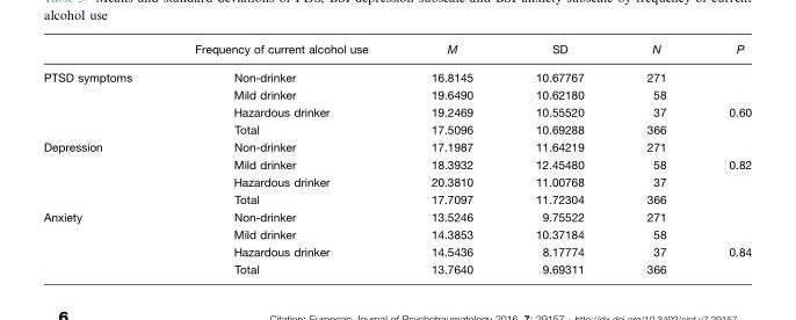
<table><thead><tr><td></td><td>Frequency of current alcohol use</td><td>M</td><td>SD</td><td>N</td><td>P</td></tr></thead><tbody><tr><td rowspan="4">PTSD symptoms</td><td>Non-drinker</td><td>16.8145</td><td>10.67767</td><td>271</td><td></td></tr><tr><td>Mild drinker</td><td>19.6490</td><td>10.62180</td><td>58</td><td></td></tr><tr><td>Hazardous drinker</td><td>19.2469</td><td>10.55520</td><td>37</td><td>0.60</td></tr><tr><td>Total</td><td>17.5096</td><td>10.69288</td><td>366</td><td></td></tr><tr><td rowspan="4">Depression</td><td>Non-drinker</td><td>17.1987</td><td>11.64219</td><td>271</td><td></td></tr><tr><td>Mild drinker</td><td>18.3932</td><td>12.45480</td><td>58</td><td>0.82</td></tr><tr><td>Hazardous drinker</td><td>20.3810</td><td>11.00768</td><td>37</td><td></td></tr><tr><td>Total</td><td>17.7097</td><td>11.72304</td><td>366</td><td></td></tr><tr><td rowspan="4">Anxiety</td><td>Non-drinker</td><td>13.5246</td><td>9.75522</td><td>271</td><td></td></tr><tr><td>Mild drinker</td><td>14.3853</td><td>10.37184</td><td>58</td><td></td></tr><tr><td>Hazardous drinker</td><td>14.5436</td><td>8.17774</td><td>37</td><td>0.84</td></tr><tr><td>Total</td><td>13.7640</td><td>9.69311</td><td>366</td><td></td></tr></tbody></table>